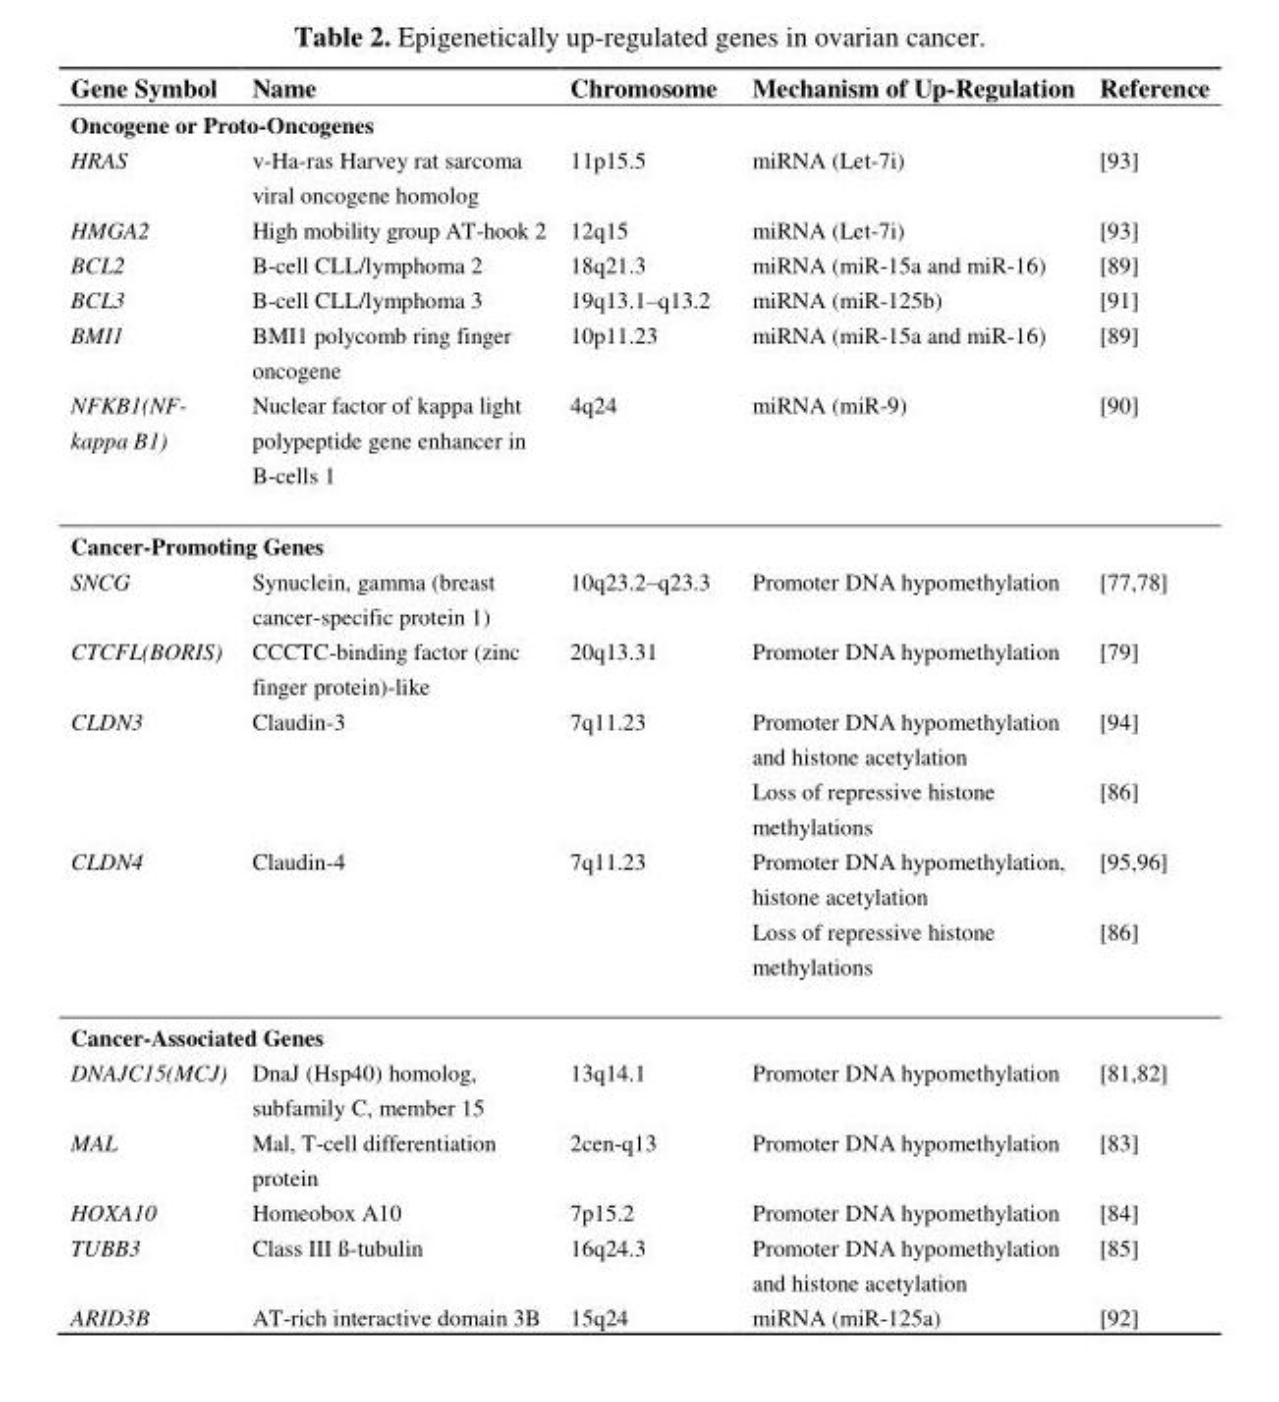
<table><thead><tr><td>Gene Symbol</td><td>Name</td><td>Chromosome</td><td>Mechanism of Up-Regulation</td><td>Reference</td></tr></thead><tbody><tr><td colspan="5">Oncogene or Proto-Oncogenes</td></tr><tr><td>HRAS</td><td>v-Ha-ras Harvey rat sarcoma viral oncogene homolog</td><td>11p15.5</td><td>miRNA (Let-7i)</td><td>[93]</td></tr><tr><td>HMGA2</td><td>High mobility group AT-hook 2</td><td>12q15</td><td>miRNA (Let-7i)</td><td>[93]</td></tr><tr><td>BCL2</td><td>B-cell CLL/lymphoma 2</td><td>18q21.3</td><td>miRNA (miR-15a and miR-16)</td><td>[89]</td></tr><tr><td>BCL3</td><td>B-cell CLL/lymphoma 3</td><td>19q13.1–q13.2</td><td>miRNA (miR-125b)</td><td>[91]</td></tr><tr><td>BMI1</td><td>BMI1 polycomb ring finger oncogene</td><td>10p11.23</td><td>miRNA (miR-15a and miR-16)</td><td>[89]</td></tr><tr><td>NFKB1(NF- kappa B1)</td><td>Nuclear factor of kappa light polypeptide gene enhancer in B-cells 1</td><td>4q24</td><td>miRNA (miR-9)</td><td>[90]</td></tr><tr><td colspan="5">Cancer-Promoting Genes</td></tr><tr><td>SNCG</td><td>Synuclein, gamma (breast cancer-specific protein 1)</td><td>10q23.2–q23.3</td><td>Promoter DNA hypomethylation</td><td>[77,78]</td></tr><tr><td>CTCFL(BORIS)</td><td>CCCTC-binding factor (zinc finger protein)-like</td><td>20q13.31</td><td>Promoter DNA hypomethylation</td><td>[79]</td></tr><tr><td rowspan="2">CLDN3</td><td rowspan="2">Claudin-3</td><td rowspan="2">7q11.23</td><td>Promoter DNA hypomethylation and histone acetylation</td><td>[94]</td></tr><tr><td>Loss of repressive histone methylations</td><td>[86]</td></tr><tr><td rowspan="2">CLDN4</td><td rowspan="2">Claudin-4</td><td rowspan="2">7q11.23</td><td>Promoter DNA hypomethylation, histone acetylation</td><td>[95,96]</td></tr><tr><td>Loss of repressive histone methylations</td><td>[86]</td></tr><tr><td colspan="5">Cancer-Associated Genes</td></tr><tr><td>DNAJC15(MCJ)</td><td>DnaJ (Hsp40) homolog, subfamily C, member 15</td><td>13q14.1</td><td>Promoter DNA hypomethylation</td><td>[81,82]</td></tr><tr><td>MAL</td><td>Mal, T-cell differentiation protein</td><td>2cen-q13</td><td>Promoter DNA hypomethylation</td><td>[83]</td></tr><tr><td>HOXA10</td><td>Homeobox A10</td><td>7p15.2</td><td>Promoter DNA hypomethylation</td><td>[84]</td></tr><tr><td>TUBB3</td><td>Class III ß-tubulin</td><td>16q24.3</td><td>Promoter DNA hypomethylation and histone acetylation</td><td>[85]</td></tr><tr><td>ARID3B</td><td>AT-rich interactive domain 3B</td><td>15q24</td><td>miRNA (miR-125a)</td><td>[92]</td></tr></tbody></table>